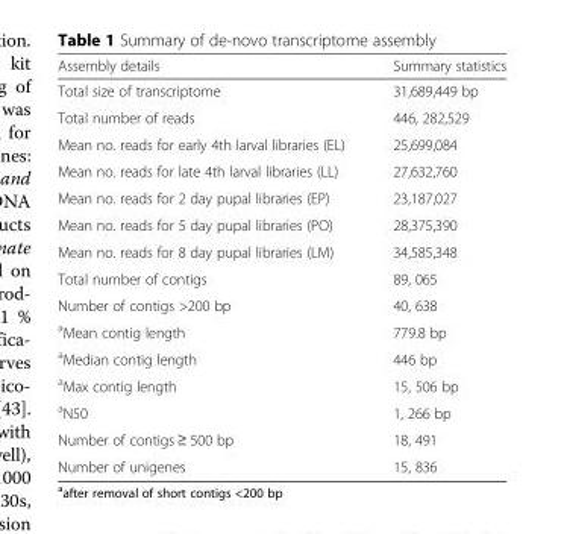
<table><thead><tr><td>Assembly details</td><td>Summary statistics</td></tr></thead><tbody><tr><td>Total size of transcriptome</td><td>31,689,449 bp</td></tr><tr><td>Total number of reads</td><td>446, 282,529</td></tr><tr><td>Mean no. reads for early 4th larval libraries (EL)</td><td>25,699,084</td></tr><tr><td>Mean no. reads for late 4th larval libraries (LL)</td><td>27,632,760</td></tr><tr><td>Mean no. reads for 2 day pupal libraries (EP)</td><td>23,187,027</td></tr><tr><td>Mean no. reads for 5 day pupal libraries (PO)</td><td>28,375,390</td></tr><tr><td>Mean no. reads for 8 day pupal libraries (LM)</td><td>34,585,348</td></tr><tr><td>Total number of contigs</td><td>89, 065</td></tr><tr><td>Number of contigs &gt;200 bp</td><td>40, 638</td></tr><tr><td><sup>a</sup>Mean contig length</td><td>779.8 bp</td></tr><tr><td><sup>a</sup>Median contig length</td><td>446 bp</td></tr><tr><td><sup>a</sup>Max contig length</td><td>15, 506 bp</td></tr><tr><td><sup>a</sup>N50</td><td>1, 266 bp</td></tr><tr><td>Number of contigs ≥ 500 bp</td><td>18, 491</td></tr><tr><td>Number of unigenes</td><td>15, 836</td></tr></tbody></table>